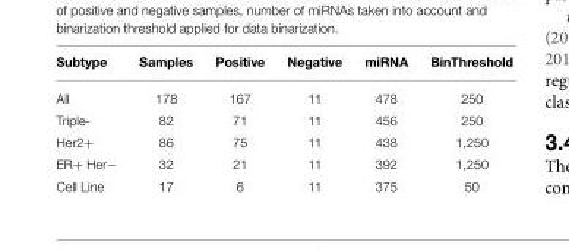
<table><thead><tr><td>Subtype</td><td>Samples</td><td>Positive</td><td>Negative</td><td>miRNA</td><td>BinThreshold</td></tr></thead><tbody><tr><td>All</td><td>178</td><td>167</td><td>11</td><td>478</td><td>250</td></tr><tr><td>Triple-</td><td>82</td><td>71</td><td>11</td><td>456</td><td>250</td></tr><tr><td>Her2+</td><td>86</td><td>75</td><td>11</td><td>438</td><td>1,250</td></tr><tr><td>ER+ Her−</td><td>32</td><td>21</td><td>11</td><td>392</td><td>1,250</td></tr><tr><td>Cell Line</td><td>17</td><td>6</td><td>11</td><td>375</td><td>50</td></tr></tbody></table>